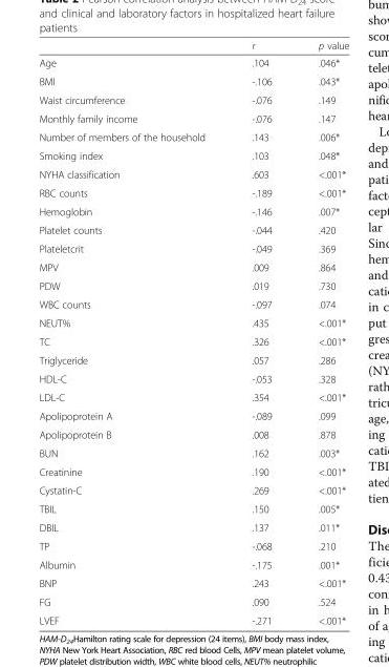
<table><thead><tr><td></td><td>r</td><td>p value</td></tr></thead><tbody><tr><td>Age</td><td>.104</td><td>.046*</td></tr><tr><td>BMI</td><td>-.106</td><td>.043*</td></tr><tr><td>Waist circumference</td><td>-.076</td><td>.149</td></tr><tr><td>Monthly family income</td><td>-.076</td><td>.147</td></tr><tr><td>Number of members of the household</td><td>.143</td><td>.006*</td></tr><tr><td>Smoking index</td><td>.103</td><td>.048*</td></tr><tr><td>NYHA classification</td><td>.603</td><td>&lt;.001*</td></tr><tr><td>RBC counts</td><td>-.189</td><td>&lt;.001*</td></tr><tr><td>Hemoglobin</td><td>-.146</td><td>.007*</td></tr><tr><td>Platelet counts</td><td>-.044</td><td>.420</td></tr><tr><td>Plateletcrit</td><td>-.049</td><td>.369</td></tr><tr><td>MPV</td><td>.009</td><td>.864</td></tr><tr><td>PDW</td><td>.019</td><td>.730</td></tr><tr><td>WBC counts</td><td>-.097</td><td>.074</td></tr><tr><td>NEUT%</td><td>.435</td><td>&lt;.001*</td></tr><tr><td>TC</td><td>.326</td><td>&lt;.001*</td></tr><tr><td>Triglyceride</td><td>.057</td><td>.286</td></tr><tr><td>HDL-C</td><td>-.053</td><td>.328</td></tr><tr><td>LDL-C</td><td>.354</td><td>&lt;.001*</td></tr><tr><td>Apolipoprotein A</td><td>-.089</td><td>.099</td></tr><tr><td>Apolipoprotein B</td><td>.008</td><td>.878</td></tr><tr><td>BUN</td><td>.162</td><td>.003*</td></tr><tr><td>Creatinine</td><td>.190</td><td>&lt;.001*</td></tr><tr><td>Cystatin-C</td><td>.269</td><td>&lt;.001*</td></tr><tr><td>TBIL</td><td>.150</td><td>.005*</td></tr><tr><td>DBIL</td><td>.137</td><td>.011*</td></tr><tr><td>TP</td><td>-.068</td><td>.210</td></tr><tr><td>Albumin</td><td>-.175</td><td>.001*</td></tr><tr><td>BNP</td><td>.243</td><td>&lt;.001*</td></tr><tr><td>FG</td><td>.090</td><td>.524</td></tr><tr><td>LVEF</td><td>-.271</td><td>&lt;.001*</td></tr></tbody></table>